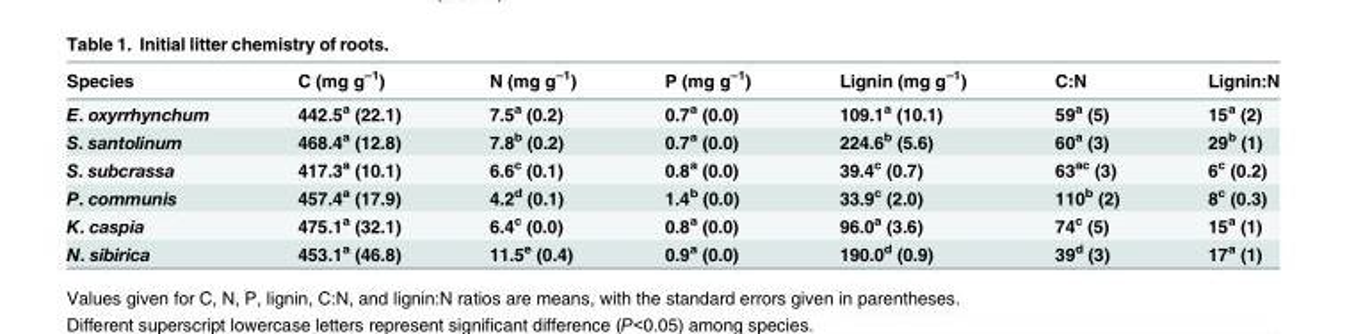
<table><thead><tr><td>Species</td><td>C (mg g<sup>–1</sup>)</td><td>N (mg g<sup>–1</sup>)</td><td>P (mg g<sup>–1</sup>)</td><td>Lignin (mg g<sup>–1</sup>)</td><td>C:N</td><td>Lignin:N</td></tr></thead><tbody><tr><td>E. oxyrrhynchum</td><td>442.5<sup>a</sup> (22.1)</td><td>7.5<sup>a</sup> (0.2)</td><td>0.7<sup>a</sup> (0.0)</td><td>109.1<sup>a</sup> (10.1)</td><td>59<sup>a</sup> (5)</td><td>15<sup>a</sup> (2)</td></tr><tr><td>S. santolinum</td><td>468.4<sup>a</sup> (12.8)</td><td>7.8<sup>b</sup> (0.2)</td><td>0.7<sup>a</sup> (0.0)</td><td>224.6<sup>b</sup> (5.6)</td><td>60<sup>a</sup> (3)</td><td>29<sup>b</sup> (1)</td></tr><tr><td>S. subcrassa</td><td>417.3<sup>a</sup> (10.1)</td><td>6.6<sup>c</sup> (0.1)</td><td>0.8<sup>a</sup> (0.0)</td><td>39.4<sup>c</sup> (0.7)</td><td>63<sup>ac</sup> (3)</td><td>6<sup>c</sup> (0.2)</td></tr><tr><td>P. communis</td><td>457.4<sup>a</sup> (17.9)</td><td>4.2<sup>d</sup> (0.1)</td><td>1.4<sup>b</sup> (0.0)</td><td>33.9<sup>c</sup> (2.0)</td><td>110<sup>b</sup> (2)</td><td>8<sup>c</sup> (0.3)</td></tr><tr><td>K. caspia</td><td>475.1<sup>a</sup> (32.1)</td><td>6.4<sup>c</sup> (0.0)</td><td>0.8<sup>a</sup> (0.0)</td><td>96.0<sup>a</sup> (3.6)</td><td>74<sup>c</sup> (5)</td><td>15<sup>a</sup> (1)</td></tr><tr><td>N. sibirica</td><td>453.1<sup>a</sup> (46.8)</td><td>11.5<sup>e</sup> (0.4)</td><td>0.9<sup>a</sup> (0.0)</td><td>190.0<sup>d</sup> (0.9)</td><td>39<sup>d</sup> (3)</td><td>17<sup>a</sup> (1)</td></tr></tbody></table>